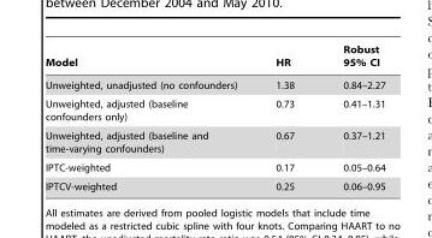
<table><thead><tr><td>Model</td><td>HR</td><td>Robust 95% CI</td></tr></thead><tbody><tr><td>Unweighted, unadjusted (no confounders)</td><td>1.38</td><td>0.84–2.27</td></tr><tr><td>Unweighted, adjusted (baseline confounders only)</td><td>0.73</td><td>0.41–1.31</td></tr><tr><td>Unweighted, adjusted (baseline and time-varying confounders)</td><td>0.67</td><td>0.37–1.21</td></tr><tr><td>IPTC-weighted</td><td>0.17</td><td>0.05–0.64</td></tr><tr><td>IPTCV-weighted</td><td>0.25</td><td>0.06–0.95</td></tr></tbody></table>